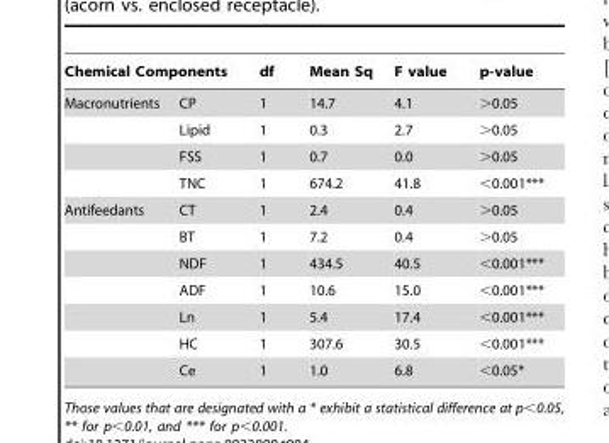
<table><thead><tr><td colspan="2">Chemical Components</td><td rowspan="2">df 1</td><td rowspan="2">Mean Sq 14.7</td><td rowspan="2">F value 4.1</td><td rowspan="2">p-value &gt;0.05</td></tr><tr><td>Macronutrients</td><td>CP</td></tr></thead><tbody><tr><td></td><td>Lipid</td><td>1</td><td>0.3</td><td>2.7</td><td>&gt;0.05</td></tr><tr><td></td><td>FSS</td><td>1</td><td>0.7</td><td>0.0</td><td>&gt;0.05</td></tr><tr><td></td><td>TNC</td><td>1</td><td>674.2</td><td>41.8</td><td>&lt;0.001***</td></tr><tr><td rowspan="7">Antifeedants</td><td>CT</td><td>1</td><td>2.4</td><td>0.4</td><td>&gt;0.05</td></tr><tr><td>BT</td><td>1</td><td>7.2</td><td>0.4</td><td>&gt;0.05</td></tr><tr><td>NDF</td><td>1</td><td>434.5</td><td>40.5</td><td>&lt;0.001***</td></tr><tr><td>ADF</td><td>1</td><td>10.6</td><td>15.0</td><td>&lt;0.001***</td></tr><tr><td>Ln</td><td>1</td><td>5.4</td><td>17.4</td><td>&lt;0.001***</td></tr><tr><td>HC</td><td>1</td><td>307.6</td><td>30.5</td><td>&lt;0.001***</td></tr><tr><td>Ce</td><td>1</td><td>1.0</td><td>6.8</td><td>&lt;0.05*</td></tr></tbody></table>